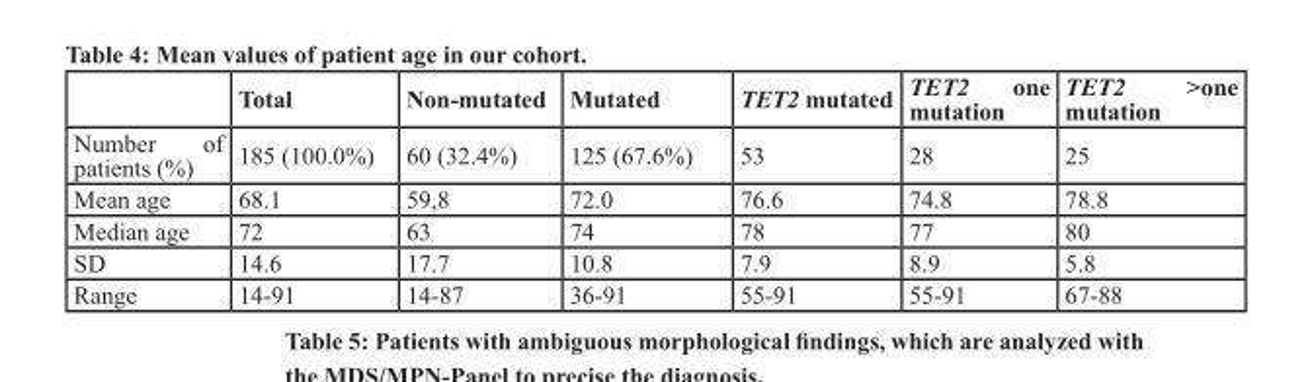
<table><thead><tr><td></td><td>Total</td><td>Non-mutated</td><td>Mutated</td><td>TET2 mutated</td><td>TET2 one mutation</td><td>TET2 &gt;one mutation</td></tr></thead><tbody><tr><td>Number of patients (%)</td><td>185 (100.0%)</td><td>60 (32.4%)</td><td>125 (67.6%)</td><td>53</td><td>28</td><td>25</td></tr><tr><td>Mean age</td><td>68.1</td><td>59,8</td><td>72.0</td><td>76.6</td><td>74.8</td><td>78.8</td></tr><tr><td>Median age</td><td>72</td><td>63</td><td>74</td><td>78</td><td>77</td><td>80</td></tr><tr><td>SD</td><td>14.6</td><td>17.7</td><td>10.8</td><td>7.9</td><td>8.9</td><td>5.8</td></tr><tr><td>Range</td><td>14-91</td><td>14-87</td><td>36-91</td><td>55-91</td><td>55-91</td><td>67-88</td></tr></tbody></table>